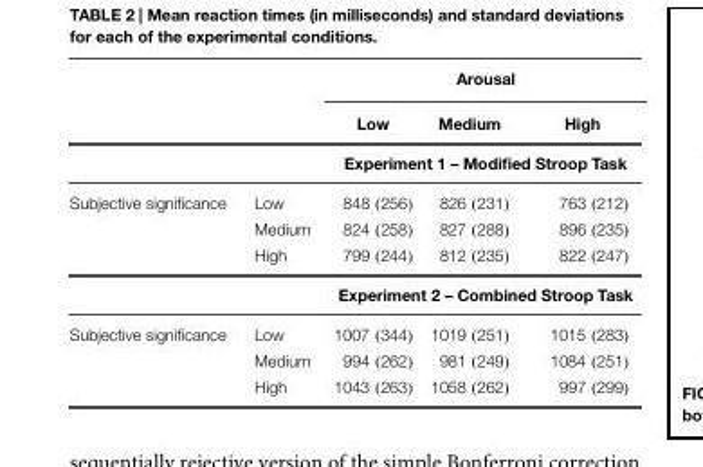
<table><thead><tr><td rowspan="2"></td><td rowspan="2"></td><td colspan="3">Arousal</td></tr><tr><td>Low</td><td>Medium</td><td>High</td></tr></thead><tbody><tr><td></td><td></td><td colspan="3">Experiment 1 – Modified Stroop Task</td></tr><tr><td rowspan="3">Subjective significance</td><td>Low</td><td>848 (256)</td><td>826 (231)</td><td>763 (212)</td></tr><tr><td>Medium</td><td>824 (258)</td><td>827 (288)</td><td>896 (235)</td></tr><tr><td>High</td><td>799 (244)</td><td>812 (235)</td><td>822 (247)</td></tr><tr><td colspan="2"></td><td colspan="3">Experiment 2 – Combined Stroop Task</td></tr><tr><td rowspan="3">Subjective significance</td><td>Low</td><td>1007 (344)</td><td>1019 (251)</td><td>1015 (283)</td></tr><tr><td>Medium</td><td>994 (262)</td><td>981 (249)</td><td>1084 (251)</td></tr><tr><td>High</td><td>1043 (263)</td><td>1058 (262)</td><td>997 (299)</td></tr></tbody></table>